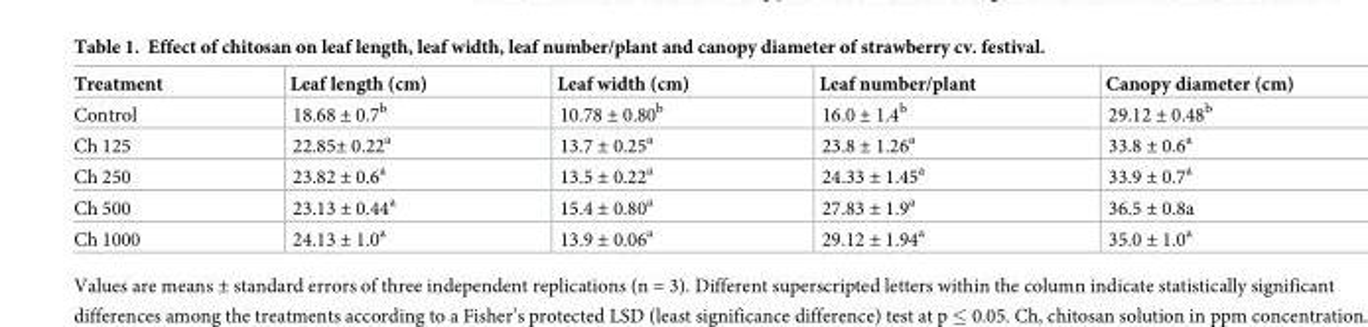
<table><thead><tr><td>Treatment</td><td>Leaf length (cm)</td><td>Leaf width (cm)</td><td>Leaf number/plant</td><td>Canopy diameter (cm)</td></tr></thead><tbody><tr><td>Control</td><td>18.68 ± 0.7<sup>b</sup></td><td>10.78 ± 0.80<sup>b</sup></td><td>16.0 ± 1.4<sup>b</sup></td><td>29.12 ± 0.48<sup>b</sup></td></tr><tr><td>Ch 125</td><td>22.85± 0.22<sup>a</sup></td><td>13.7 ± 0.25<sup>a</sup></td><td>23.8 ± 1.26<sup>a</sup></td><td>33.8 ± 0.6<sup>a</sup></td></tr><tr><td>Ch 250</td><td>23.82 ± 0.6<sup>a</sup></td><td>13.5 ± 0.22<sup>a</sup></td><td>24.33 ± 1.45<sup>a</sup></td><td>33.9 ± 0.7<sup>a</sup></td></tr><tr><td>Ch 500</td><td>23.13 ± 0.44<sup>a</sup></td><td>15.4 ± 0.80<sup>a</sup></td><td>27.83 ± 1.9<sup>a</sup></td><td>36.5 ± 0.8a</td></tr><tr><td>Ch 1000</td><td>24.13 ± 1.0<sup>a</sup></td><td>13.9 ± 0.06<sup>a</sup></td><td>29.12 ± 1.94<sup>a</sup></td><td>35.0 ± 1.0<sup>a</sup></td></tr></tbody></table>